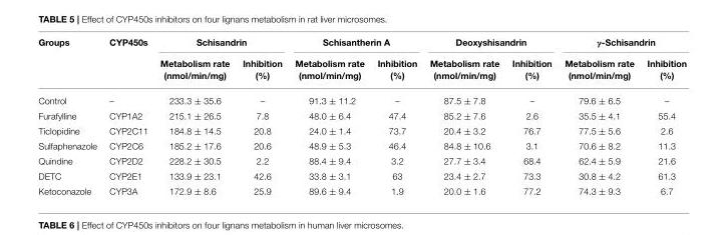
<table><thead><tr><td rowspan="2">Groups</td><td rowspan="2">CYP450s</td><td colspan="2">Schisandrin</td><td colspan="2">Schisantherin A</td><td colspan="2">Deoxyshisandrin</td><td colspan="2">γ-Schisandrin</td></tr><tr><td>Metabolism rate (nmol/min/mg)</td><td>Inhibition (%)</td><td>Metabolism rate (nmol/min/mg)</td><td>Inhibition (%)</td><td>Metabolism rate (nmol/min/mg)</td><td>Inhibition (%)</td><td>Metabolism rate (nmol/min/mg)</td><td>Inhibition (%)</td></tr></thead><tbody><tr><td>Control</td><td>–</td><td>233.3 ± 35.6</td><td>–</td><td>91.3 ± 11.2</td><td>–</td><td>87.5 ± 7.8</td><td>–</td><td>79.6 ± 6.5</td><td>–</td></tr><tr><td>Furafylline</td><td>CYP1A2</td><td>215.1 ± 26.5</td><td>7.8</td><td>48.0 ± 6.4</td><td>47.4</td><td>85.2 ± 7.6</td><td>2.6</td><td>35.5 ± 4.1</td><td>55.4</td></tr><tr><td>Ticlopidine</td><td>CYP2C11</td><td>184.8 ± 14.5</td><td>20.8</td><td>24.0 ± 1.4</td><td>73.7</td><td>20.4 ± 3.2</td><td>76.7</td><td>77.5 ± 5.6</td><td>2.6</td></tr><tr><td>Sulfaphenazole</td><td>CYP2C6</td><td>185.2 ± 17.6</td><td>20.6</td><td>48.9 ± 5.3</td><td>46.4</td><td>84.8 ± 10.6</td><td>3.1</td><td>70.6 ± 8.2</td><td>11.3</td></tr><tr><td>Quindine</td><td>CYP2D2</td><td>228.2 ± 30.5</td><td>2.2</td><td>88.4 ± 9.4</td><td>3.2</td><td>27.7 ± 3.4</td><td>68.4</td><td>62.4 ± 5.9</td><td>21.6</td></tr><tr><td>DETC</td><td>CYP2E1</td><td>133.9 ± 23.1</td><td>42.6</td><td>33.8 ± 3.1</td><td>63</td><td>23.4 ± 2.7</td><td>73.3</td><td>30.8 ± 4.2</td><td>61.3</td></tr><tr><td>Ketoconazole</td><td>CYP3A</td><td>172.9 ± 8.6</td><td>25.9</td><td>89.6 ± 9.4</td><td>1.9</td><td>20.0 ± 1.6</td><td>77.2</td><td>74.3 ± 9.3</td><td>6.7</td></tr></tbody></table>